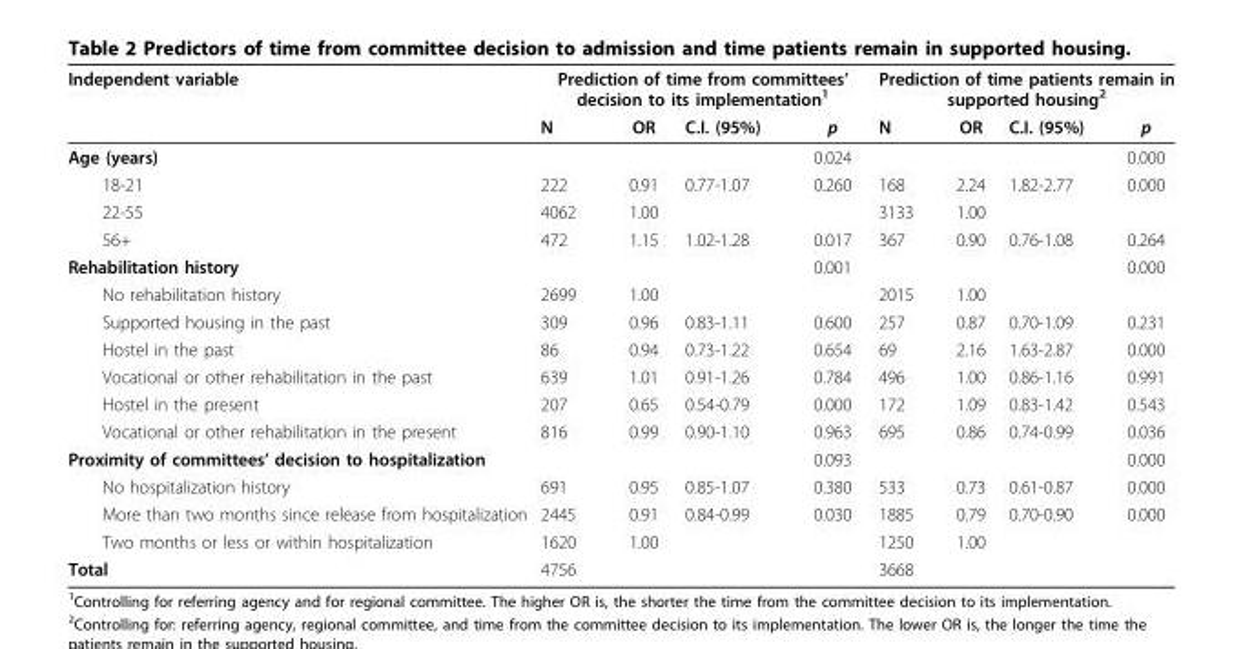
<table><thead><tr><td rowspan="2">Independent variable</td><td colspan="4">Prediction of time from committees’ decision to its implementation<sup>1</sup></td><td colspan="4">Prediction of time patients remain in supported housing<sup>2</sup></td></tr><tr><td>N</td><td>OR</td><td>C.I. (95%)</td><td>p</td><td>N</td><td>OR</td><td>C.I. (95%)</td><td>p</td></tr></thead><tbody><tr><td>Age (years)</td><td></td><td></td><td></td><td>0.024</td><td></td><td></td><td></td><td>0.000</td></tr><tr><td>18-21</td><td>222</td><td>0.91</td><td>0.77-1.07</td><td>0.260</td><td>168</td><td>2.24</td><td>1.82-2.77</td><td>0.000</td></tr><tr><td>22-55</td><td>4062</td><td>1.00</td><td></td><td></td><td>3133</td><td>1.00</td><td></td><td></td></tr><tr><td>56+</td><td>472</td><td>1.15</td><td>1.02-1.28</td><td>0.017</td><td>367</td><td>0.90</td><td>0.76-1.08</td><td>0.264</td></tr><tr><td>Rehabilitation history</td><td></td><td></td><td></td><td>0.001</td><td></td><td></td><td></td><td>0.000</td></tr><tr><td>No rehabilitation history</td><td>2699</td><td>1.00</td><td></td><td></td><td>2015</td><td>1.00</td><td></td><td></td></tr><tr><td>Supported housing in the past</td><td>309</td><td>0.96</td><td>0.83-1.11</td><td>0.600</td><td>257</td><td>0.87</td><td>0.70-1.09</td><td>0.231</td></tr><tr><td>Hostel in the past</td><td>86</td><td>0.94</td><td>0.73-1.22</td><td>0.654</td><td>69</td><td>2.16</td><td>1.63-2.87</td><td>0.000</td></tr><tr><td>Vocational or other rehabilitation in the past</td><td>639</td><td>1.01</td><td>0.91-1.26</td><td>0.784</td><td>496</td><td>1.00</td><td>0.86-1.16</td><td>0.991</td></tr><tr><td>Hostel in the present</td><td>207</td><td>0.65</td><td>0.54-0.79</td><td>0.000</td><td>172</td><td>1.09</td><td>0.83-1.42</td><td>0.543</td></tr><tr><td>Vocational or other rehabilitation in the present</td><td>816</td><td>0.99</td><td>0.90-1.10</td><td>0.963</td><td>695</td><td>0.86</td><td>0.74-0.99</td><td>0.036</td></tr><tr><td colspan="4">Proximity of committees’ decision to hospitalization</td><td>0.093</td><td></td><td></td><td></td><td>0.000</td></tr><tr><td>No hospitalization history</td><td>691</td><td>0.95</td><td>0.85-1.07</td><td>0.380</td><td>533</td><td>0.73</td><td>0.61-0.87</td><td>0.000</td></tr><tr><td>More than two months since release from hospitalization</td><td>2445</td><td>0.91</td><td>0.84-0.99</td><td>0.030</td><td>1885</td><td>0.79</td><td>0.70-0.90</td><td>0.000</td></tr><tr><td>Two months or less or within hospitalization</td><td>1620</td><td>1.00</td><td></td><td></td><td>1250</td><td>1.00</td><td></td><td></td></tr><tr><td>Total</td><td>4756</td><td></td><td></td><td></td><td>3668</td><td></td><td></td><td></td></tr></tbody></table>